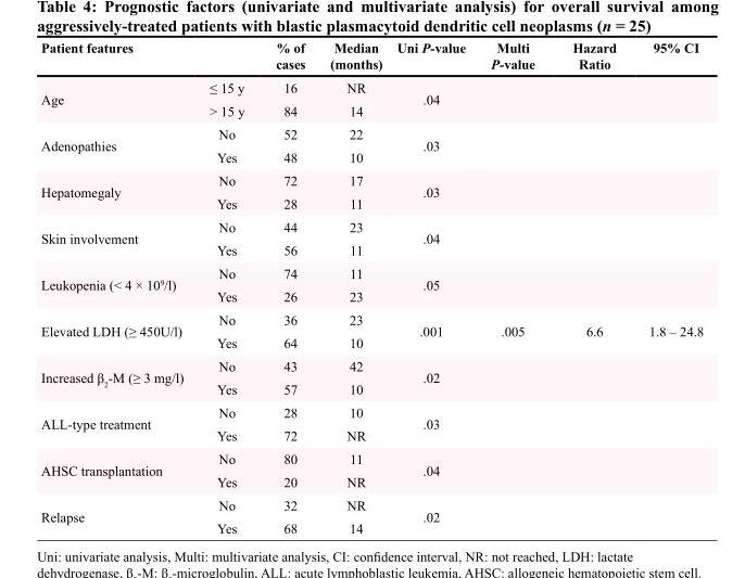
<table><thead><tr><td>Patient features</td><td></td><td>% of cases</td><td>Median (months)</td><td>Uni P-value</td><td>Multi P-value</td><td>Hazard Ratio</td><td>95% CI</td></tr></thead><tbody><tr><td rowspan="2">Age</td><td>≤ 15 y</td><td>16</td><td>NR</td><td rowspan="2">.04</td><td></td><td></td><td></td></tr><tr><td>&gt; 15 y</td><td>84</td><td>14</td><td></td><td></td><td></td></tr><tr><td rowspan="2">Adenopathies</td><td>No</td><td>52</td><td>22</td><td rowspan="2">.03</td><td></td><td></td><td></td></tr><tr><td>Yes</td><td>48</td><td>10</td><td></td><td></td><td></td></tr><tr><td rowspan="2">Hepatomegaly</td><td>No</td><td>72</td><td>17</td><td rowspan="2">.03</td><td></td><td></td><td></td></tr><tr><td>Yes</td><td>28</td><td>11</td><td></td><td></td><td></td></tr><tr><td rowspan="2">Skin involvement</td><td>No</td><td>44</td><td>23</td><td rowspan="2">.04</td><td></td><td></td><td></td></tr><tr><td>Yes</td><td>56</td><td>11</td><td></td><td></td><td></td></tr><tr><td rowspan="2">Leukopenia (&lt; 4 × 10<sup>9</sup>/l)</td><td>No</td><td>74</td><td>11</td><td rowspan="2">.05</td><td></td><td></td><td></td></tr><tr><td>Yes</td><td>26</td><td>23</td><td></td><td></td><td></td></tr><tr><td rowspan="2">Elevated LDH (≥ 450U/l)</td><td>No</td><td>36</td><td>23</td><td rowspan="2">.001</td><td rowspan="2">.005</td><td rowspan="2">6.6</td><td rowspan="2">1.8 – 24.8</td></tr><tr><td>Yes</td><td>64</td><td>10</td></tr><tr><td rowspan="2">Increased β<sub>2</sub>-M (≥ 3 mg/l)</td><td>No</td><td>43</td><td>42</td><td rowspan="2">.02</td><td></td><td></td><td></td></tr><tr><td>Yes</td><td>57</td><td>10</td><td></td><td></td><td></td></tr><tr><td rowspan="2">ALL-type treatment</td><td>No</td><td>28</td><td>10</td><td rowspan="2">.03</td><td></td><td></td><td></td></tr><tr><td>Yes</td><td>72</td><td>NR</td><td></td><td></td><td></td></tr><tr><td rowspan="2">AHSC transplantation</td><td>No</td><td>80</td><td>11</td><td rowspan="2">.04</td><td></td><td></td><td></td></tr><tr><td>Yes</td><td>20</td><td>NR</td><td></td><td></td><td></td></tr><tr><td rowspan="2">Relapse</td><td>No</td><td>32</td><td>NR</td><td rowspan="2">.02</td><td></td><td></td><td></td></tr><tr><td>Yes</td><td>68</td><td>14</td><td></td><td></td><td></td></tr></tbody></table>